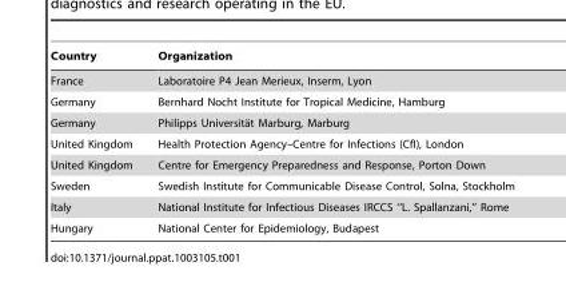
<table><thead><tr><td>Country</td><td>Organization</td></tr></thead><tbody><tr><td>France</td><td>Laboratoire P4 Jean Merieux, Inserm, Lyon</td></tr><tr><td>Germany</td><td>Bernhard Nocht Institute for Tropical Medicine, Hamburg</td></tr><tr><td>Germany</td><td>Philipps Universita¨t Marburg, Marburg</td></tr><tr><td>United Kingdom</td><td>Health Protection Agency–Centre for Infections (CfI), London</td></tr><tr><td>United Kingdom</td><td>Centre for Emergency Preparedness and Response, Porton Down</td></tr><tr><td>Sweden</td><td>Swedish Institute for Communicable Disease Control, Solna, Stockholm</td></tr><tr><td>Italy</td><td>National Institute for Infectious Diseases IRCCS ‘‘L. Spallanzani,’’ Rome</td></tr><tr><td>Hungary</td><td>National Center for Epidemiology, Budapest</td></tr></tbody></table>